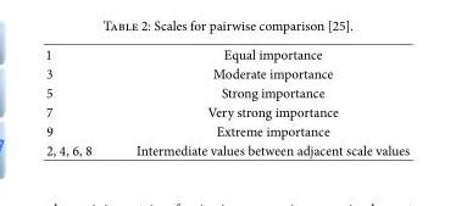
<table><tbody><tr><td>1</td><td>Equal importance</td></tr><tr><td>3</td><td>Moderate importance</td></tr><tr><td>5</td><td>Strong importance</td></tr><tr><td>7</td><td>Very strong importance</td></tr><tr><td>9</td><td>Extreme importance</td></tr><tr><td>2, 4, 6, 8</td><td>Intermediate values between adjacent scale values</td></tr></tbody></table>